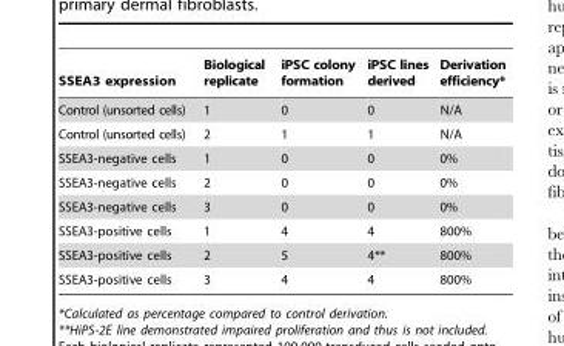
<table><thead><tr><td>SSEA3 expression</td><td>Biological replicate</td><td>iPSC colony formation</td><td>iPSC lines derived</td><td>Derivation efficiency*</td></tr></thead><tbody><tr><td>Control (unsorted cells)</td><td>1</td><td>0</td><td>0</td><td>N/A</td></tr><tr><td>Control (unsorted cells)</td><td>2</td><td>1</td><td>1</td><td>N/A</td></tr><tr><td>SSEA3-negative cells</td><td>1</td><td>0</td><td>0</td><td>0%</td></tr><tr><td>SSEA3-negative cells</td><td>2</td><td>0</td><td>0</td><td>0%</td></tr><tr><td>SSEA3-negative cells</td><td>3</td><td>0</td><td>0</td><td>0%</td></tr><tr><td>SSEA3-positive cells</td><td>1</td><td>4</td><td>4</td><td>800%</td></tr><tr><td>SSEA3-positive cells</td><td>2</td><td>5</td><td>4**</td><td>800%</td></tr><tr><td>SSEA3-positive cells</td><td>3</td><td>4</td><td>4</td><td>800%</td></tr></tbody></table>